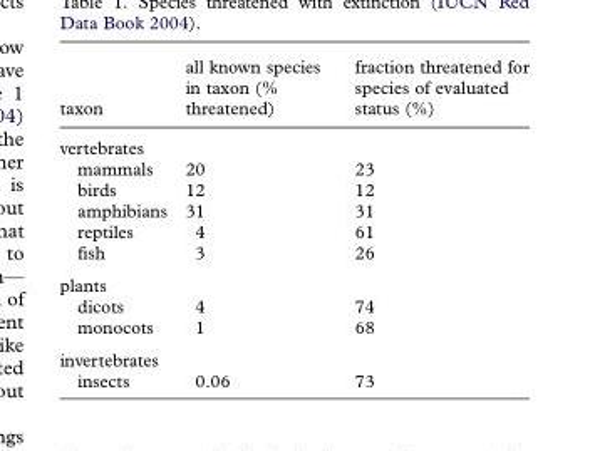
<table><thead><tr><td>taxon</td><td>all known species in taxon (% threatened)</td><td>fraction threatened for species of evaluated status (%)</td></tr></thead><tbody><tr><td colspan="3">vertebrates</td></tr><tr><td>mammals</td><td>20</td><td>23</td></tr><tr><td>birds</td><td>12</td><td>12</td></tr><tr><td>amphibians</td><td>31</td><td>31</td></tr><tr><td>reptiles</td><td>4</td><td>61</td></tr><tr><td>fish</td><td>3</td><td>26</td></tr><tr><td colspan="3">plants</td></tr><tr><td>dicots</td><td>4</td><td>74</td></tr><tr><td>monocots</td><td>1</td><td>68</td></tr><tr><td colspan="3">invertebrates</td></tr><tr><td>insects</td><td>0.06</td><td>73</td></tr></tbody></table>